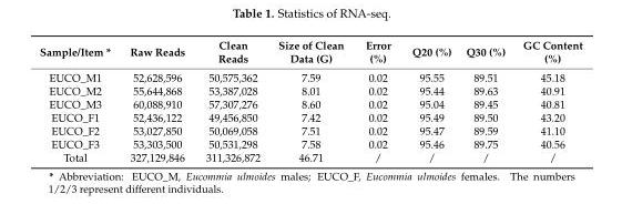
<table><thead><tr><td>Sample/Item *</td><td>Raw Reads</td><td>Clean Reads</td><td>Size of Clean Data (G)</td><td>Error (%)</td><td>Q20 (%)</td><td>Q30 (%)</td><td>GC Content (%)</td></tr></thead><tbody><tr><td>EUCO_M1</td><td>52,628,596</td><td>50,575,362</td><td>7.59</td><td>0.02</td><td>95.55</td><td>89.51</td><td>45.18</td></tr><tr><td>EUCO_M2</td><td>55,644,868</td><td>53,387,028</td><td>8.01</td><td>0.02</td><td>95.44</td><td>89.63</td><td>40.91</td></tr><tr><td>EUCO_M3</td><td>60,088,910</td><td>57,307,276</td><td>8.60</td><td>0.02</td><td>95.04</td><td>89.45</td><td>40.81</td></tr><tr><td>EUCO_F1</td><td>52,436,122</td><td>49,456,850</td><td>7.42</td><td>0.02</td><td>95.49</td><td>89.50</td><td>43.20</td></tr><tr><td>EUCO_F2</td><td>53,027,850</td><td>50,069,058</td><td>7.51</td><td>0.02</td><td>95.47</td><td>89.59</td><td>41.10</td></tr><tr><td>EUCO_F3</td><td>53,303,500</td><td>50,531,298</td><td>7.58</td><td>0.02</td><td>95.46</td><td>89.75</td><td>40.56</td></tr><tr><td>Total</td><td>327,129,846</td><td>311,326,872</td><td>46.71</td><td>/</td><td>/</td><td>/</td><td>/</td></tr></tbody></table>